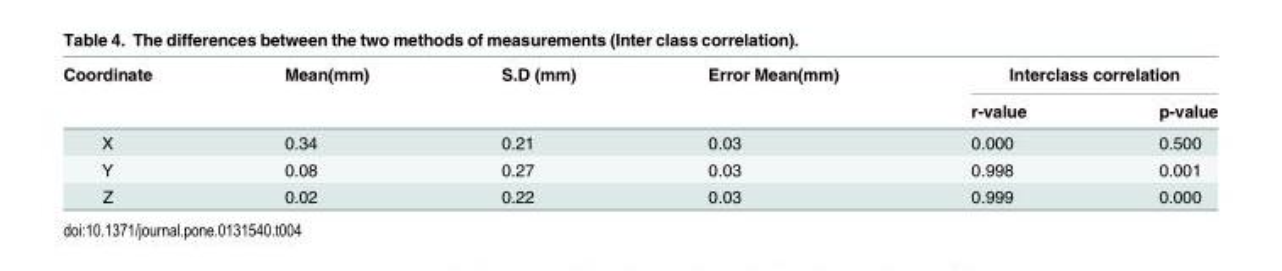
<table><thead><tr><td rowspan="2">Coordinate</td><td rowspan="2">Mean(mm)</td><td rowspan="2">S.D (mm)</td><td rowspan="2">Error Mean(mm)</td><td colspan="2">Interclass correlation</td></tr><tr><td>r-value</td><td>p-value</td></tr></thead><tbody><tr><td>X</td><td>0.34</td><td>0.21</td><td>0.03</td><td>0.000</td><td>0.500</td></tr><tr><td>Y</td><td>0.08</td><td>0.27</td><td>0.03</td><td>0.998</td><td>0.001</td></tr><tr><td>Z</td><td>0.02</td><td>0.22</td><td>0.03</td><td>0.999</td><td>0.000</td></tr></tbody></table>